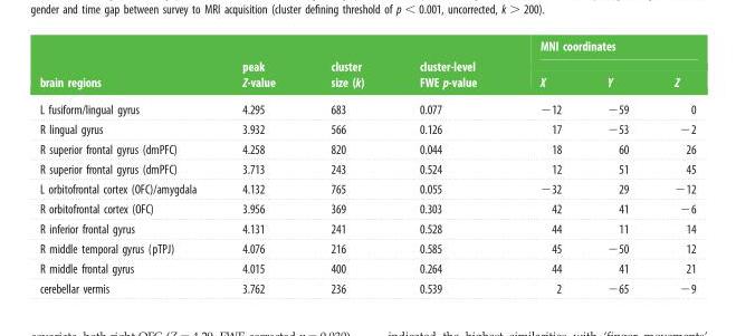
<table><thead><tr><td rowspan="2">brain regions</td><td rowspan="2">peak Z-value</td><td rowspan="2">cluster size (k)</td><td rowspan="2">cluster-level FWE p-value</td><td colspan="3">MNI coordinates</td></tr><tr><td>X</td><td>Y</td><td>Z</td></tr></thead><tbody><tr><td>L fusiform/lingual gyrus</td><td>4.295</td><td>683</td><td>0.077</td><td>−12</td><td>−59</td><td>0</td></tr><tr><td>R lingual gyrus</td><td>3.932</td><td>566</td><td>0.126</td><td>17</td><td>−53</td><td>−2</td></tr><tr><td>R superior frontal gyrus (dmPFC)</td><td>4.258</td><td>820</td><td>0.044</td><td>18</td><td>60</td><td>26</td></tr><tr><td>R superior frontal gyrus (dmPFC)</td><td>3.713</td><td>243</td><td>0.524</td><td>12</td><td>51</td><td>45</td></tr><tr><td>L orbitofrontal cortex (OFC)/amygdala</td><td>4.132</td><td>765</td><td>0.055</td><td>−32</td><td>29</td><td>−12</td></tr><tr><td>R orbitofrontal cortex (OFC)</td><td>3.956</td><td>369</td><td>0.303</td><td>42</td><td>41</td><td>−6</td></tr><tr><td>R inferior frontal gyrus</td><td>4.131</td><td>241</td><td>0.528</td><td>44</td><td>11</td><td>14</td></tr><tr><td>R middle temporal gyrus (pTPJ)</td><td>4.076</td><td>216</td><td>0.585</td><td>45</td><td>−50</td><td>12</td></tr><tr><td>R middle frontal gyrus</td><td>4.015</td><td>400</td><td>0.264</td><td>44</td><td>41</td><td>21</td></tr><tr><td>cerebellar vermis</td><td>3.762</td><td>236</td><td>0.539</td><td>2</td><td>−65</td><td>−9</td></tr></tbody></table>